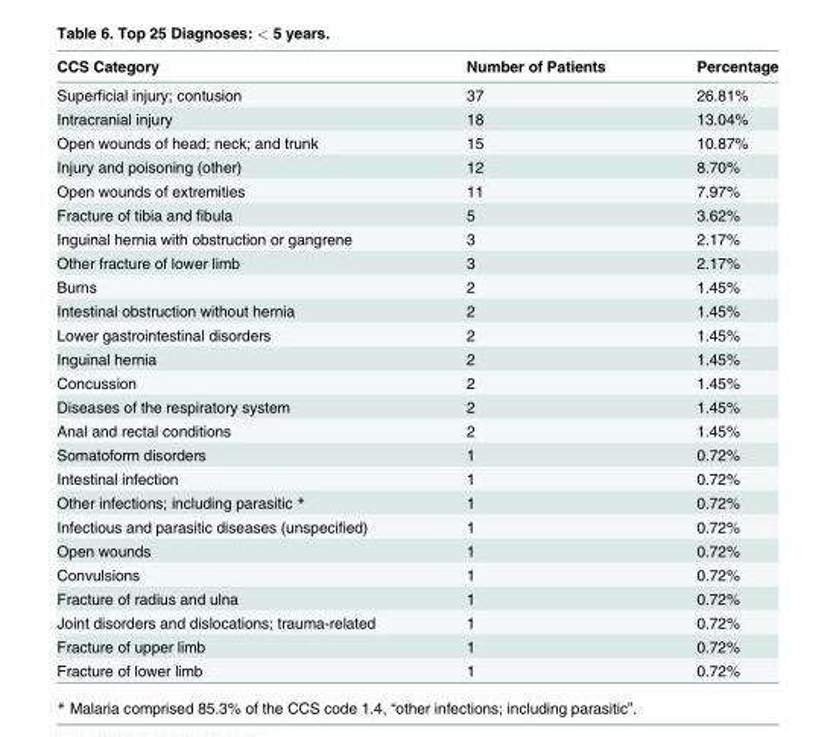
<table><thead><tr><td>CCS Category</td><td>Number of Patients</td><td>Percentage</td></tr></thead><tbody><tr><td>Superficial injury; contusion</td><td>37</td><td>26.81%</td></tr><tr><td>Intracranial injury</td><td>18</td><td>13.04%</td></tr><tr><td>Open wounds of head; neck; and trunk</td><td>15</td><td>10.87%</td></tr><tr><td>Injury and poisoning (other)</td><td>12</td><td>8.70%</td></tr><tr><td>Open wounds of extremities</td><td>11</td><td>7.97%</td></tr><tr><td>Fracture of tibia and fibula</td><td>5</td><td>3.62%</td></tr><tr><td>Inguinal hernia with obstruction or gangrene</td><td>3</td><td>2.17%</td></tr><tr><td>Other fracture of lower limb</td><td>3</td><td>2.17%</td></tr><tr><td>Burns</td><td>2</td><td>1.45%</td></tr><tr><td>Intestinal obstruction without hernia</td><td>2</td><td>1.45%</td></tr><tr><td>Lower gastrointestinal disorders</td><td>2</td><td>1.45%</td></tr><tr><td>Inguinal hernia</td><td>2</td><td>1.45%</td></tr><tr><td>Concussion</td><td>2</td><td>1.45%</td></tr><tr><td>Diseases of the respiratory system</td><td>2</td><td>1.45%</td></tr><tr><td>Anal and rectal conditions</td><td>2</td><td>1.45%</td></tr><tr><td>Somatoform disorders</td><td>1</td><td>0.72%</td></tr><tr><td>Intestinal infection</td><td>1</td><td>0.72%</td></tr><tr><td>Other infections; including parasitic *</td><td>1</td><td>0.72%</td></tr><tr><td>Infectious and parasitic diseases (unspecified)</td><td>1</td><td>0.72%</td></tr><tr><td>Open wounds</td><td>1</td><td>0.72%</td></tr><tr><td>Convulsions</td><td>1</td><td>0.72%</td></tr><tr><td>Fracture of radius and ulna</td><td>1</td><td>0.72%</td></tr><tr><td>Joint disorders and dislocations; trauma-related</td><td>1</td><td>0.72%</td></tr><tr><td>Fracture of upper limb</td><td>1</td><td>0.72%</td></tr><tr><td>Fracture of lower limb</td><td>1</td><td>0.72%</td></tr></tbody></table>